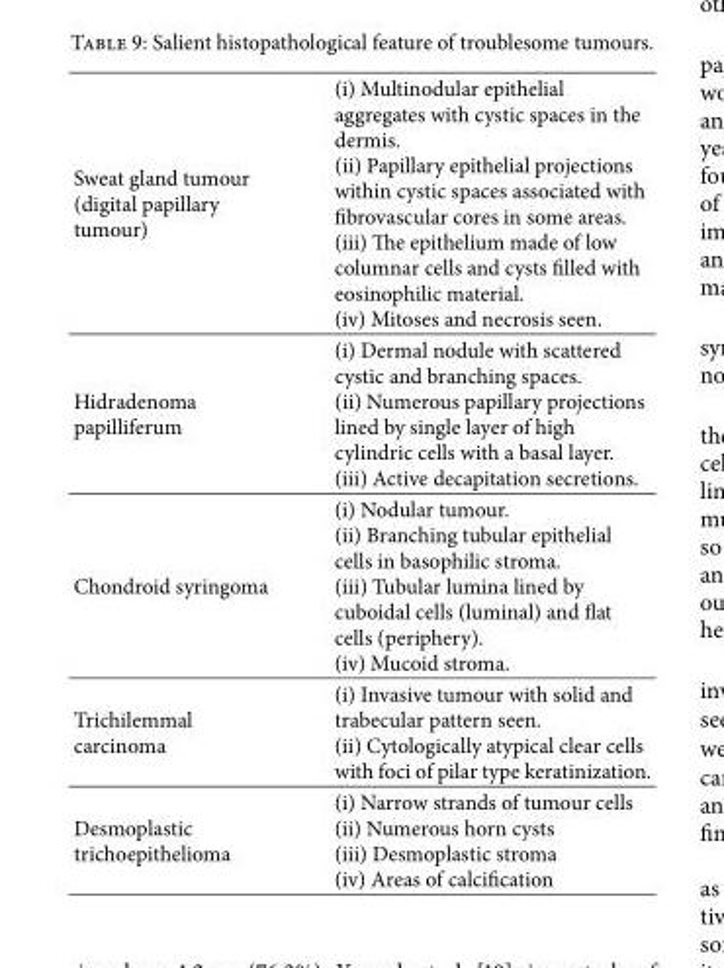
<table><tbody><tr><td>Sweat gland tumour (digital papillary tumour)</td><td>(i) Multinodular epithelial aggregates with cystic spaces in the dermis. (ii) Papillary epithelial projections within cystic spaces associated with fibrovascular cores in some areas. (iii) The epithelium made of low columnar cells and cysts filled with eosinophilic material. (iv) Mitoses and necrosis seen.</td></tr><tr><td>Hidradenoma papilliferum</td><td>(i) Dermal nodule with scattered cystic and branching spaces. (ii) Numerous papillary projections lined by single layer of high cylindric cells with a basal layer. (iii) Active decapitation secretions.</td></tr><tr><td>Chondroid syringoma</td><td>(i) Nodular tumour. (ii) Branching tubular epithelial cells in basophilic stroma. (iii) Tubular lumina lined by cuboidal cells (luminal) and flat cells (periphery). (iv) Mucoid stroma.</td></tr><tr><td>Trichilemmal carcinoma</td><td>(i) Invasive tumour with solid and trabecular pattern seen. (ii) Cytologically atypical clear cells with foci of pilar type keratinization.</td></tr><tr><td>Desmoplastic trichoepithelioma</td><td>(i) Narrow strands of tumour cells (ii) Numerous horn cysts (iii) Desmoplastic stroma (iv) Areas of calcification</td></tr></tbody></table>